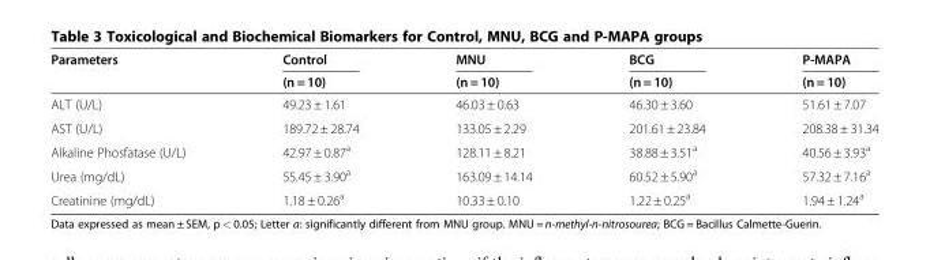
<table><thead><tr><td rowspan="2">Parameters</td><td rowspan="2">Control (n = 10)</td><td rowspan="2">MNU (n = 10)</td><td rowspan="2">BCG (n = 10)</td><td rowspan="2">P-MAPA (n = 10)</td></tr><tr></tr></thead><tbody><tr><td>ALT (U/L)</td><td>49.23 ± 1.61</td><td>46.03 ± 0.63</td><td>46.30 ± 3.60</td><td>51.61 ± 7.07</td></tr><tr><td>AST (U/L)</td><td>189.72 ± 28.74</td><td>133.05 ± 2.29</td><td>201.61 ± 23.84</td><td>208.38 ± 31.34</td></tr><tr><td>Alkaline Phosfatase (U/L)</td><td>42.97 ± 0.87<sup>a</sup></td><td>128.11 ± 8.21</td><td>38.88 ± 3.51<sup>a</sup></td><td>40.56 ± 3.93<sup>a</sup></td></tr><tr><td>Urea (mg/dL)</td><td>55.45 ± 3.90<sup>a</sup></td><td>163.09 ± 14.14</td><td>60.52 ± 5.90<sup>a</sup></td><td>57.32 ± 7.16<sup>a</sup></td></tr><tr><td>Creatinine (mg/dL)</td><td>1.18 ± 0.26<sup>a</sup></td><td>10.33 ± 0.10</td><td>1.22 ± 0.25<sup>a</sup></td><td>1.94 ± 1.24<sup>a</sup></td></tr></tbody></table>